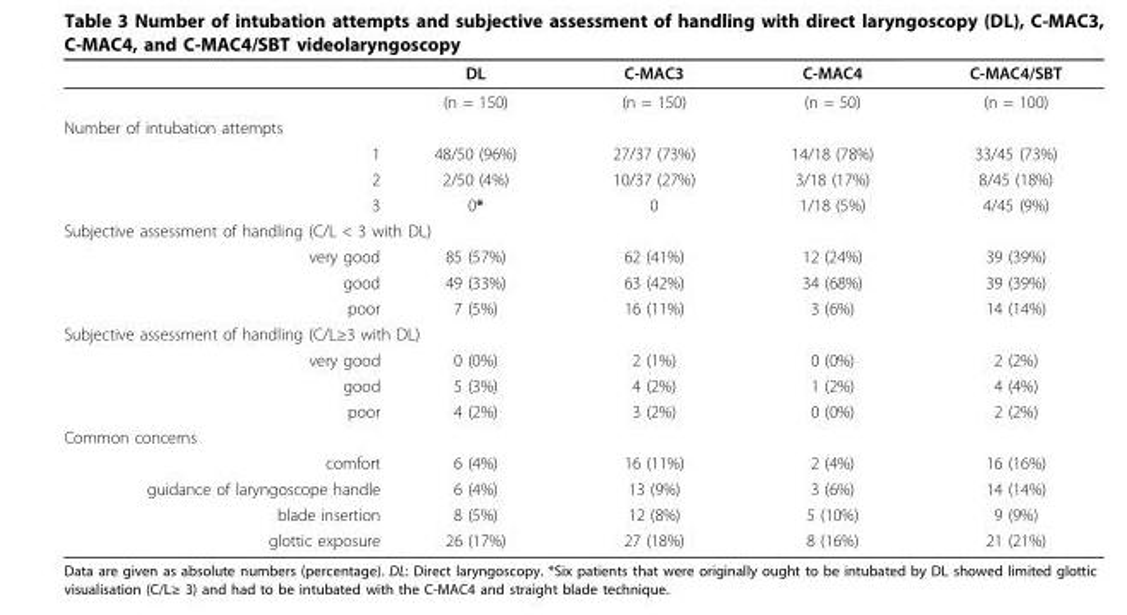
<table><thead><tr><td></td><td>DL</td><td>C-MAC3</td><td>C-MAC4</td><td>C-MAC4/SBT</td></tr></thead><tbody><tr><td></td><td>(n = 150)</td><td>(n = 150)</td><td>(n = 50)</td><td>(n = 100)</td></tr><tr><td colspan="5">Number of intubation attempts</td></tr><tr><td>1</td><td>48/50 (96%)</td><td>27/37 (73%)</td><td>14/18 (78%)</td><td>33/45 (73%)</td></tr><tr><td>2</td><td>2/50 (4%)</td><td>10/37 (27%)</td><td>3/18 (17%)</td><td>8/45 (18%)</td></tr><tr><td>3</td><td>0*</td><td>0</td><td>1/18 (5%)</td><td>4/45 (9%)</td></tr><tr><td colspan="5">Subjective assessment of handling (C/L &lt; 3 with DL)</td></tr><tr><td>very good</td><td>85 (57%)</td><td>62 (41%)</td><td>12 (24%)</td><td>39 (39%)</td></tr><tr><td>good</td><td>49 (33%)</td><td>63 (42%)</td><td>34 (68%)</td><td>39 (39%)</td></tr><tr><td>poor</td><td>7 (5%)</td><td>16 (11%)</td><td>3 (6%)</td><td>14 (14%)</td></tr><tr><td colspan="5">Subjective assessment of handling (C/L≥3 with DL)</td></tr><tr><td>very good</td><td>0 (0%)</td><td>2 (1%)</td><td>0 (0%)</td><td>2 (2%)</td></tr><tr><td>good</td><td>5 (3%)</td><td>4 (2%)</td><td>1 (2%)</td><td>4 (4%)</td></tr><tr><td>poor</td><td>4 (2%)</td><td>3 (2%)</td><td>0 (0%)</td><td>2 (2%)</td></tr><tr><td colspan="5">Common concerns</td></tr><tr><td>comfort</td><td>6 (4%)</td><td>16 (11%)</td><td>2 (4%)</td><td>16 (16%)</td></tr><tr><td>guidance of laryngoscope handle</td><td>6 (4%)</td><td>13 (9%)</td><td>3 (6%)</td><td>14 (14%)</td></tr><tr><td>blade insertion</td><td>8 (5%)</td><td>12 (8%)</td><td>5 (10%)</td><td>9 (9%)</td></tr><tr><td>glottic exposure</td><td>26 (17%)</td><td>27 (18%)</td><td>8 (16%)</td><td>21 (21%)</td></tr></tbody></table>